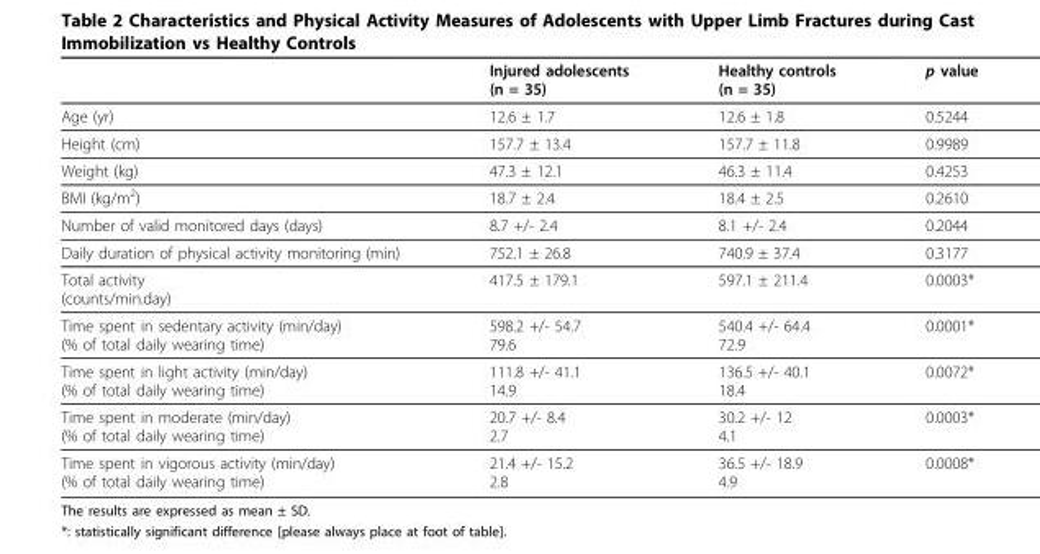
<table><thead><tr><td></td><td>Injured adolescents (n = 35)</td><td>Healthy controls (n = 35)</td><td>p value</td></tr></thead><tbody><tr><td>Age (yr)</td><td>12.6 ± 1.7</td><td>12.6 ± 1.8</td><td>0.5244</td></tr><tr><td>Height (cm)</td><td>157.7 ± 13.4</td><td>157.7 ± 11.8</td><td>0.9989</td></tr><tr><td>Weight (kg)</td><td>47.3 ± 12.1</td><td>46.3 ± 11.4</td><td>0.4253</td></tr><tr><td>BMI (kg/m<sup>2</sup>)</td><td>18.7 ± 2.4</td><td>18.4 ± 2.5</td><td>0.2610</td></tr><tr><td>Number of valid monitored days (days)</td><td>8.7 +/- 2.4</td><td>8.1 +/- 2.4</td><td>0.2044</td></tr><tr><td>Daily duration of physical activity monitoring (min)</td><td>752.1 ± 26.8</td><td>740.9 ± 37.4</td><td>0.3177</td></tr><tr><td>Total activity (counts/min.day)</td><td>417.5 ± 179.1</td><td>597.1 ± 211.4</td><td>0.0003*</td></tr><tr><td>Time spent in sedentary activity (min/day) (% of total daily wearing time)</td><td>598.2 +/- 54.7 79.6</td><td>540.4 +/- 64.4 72.9</td><td>0.0001*</td></tr><tr><td>Time spent in light activity (min/day) (% of total daily wearing time)</td><td>111.8 +/- 41.1 14.9</td><td>136.5 +/- 40.1 18.4</td><td>0.0072*</td></tr><tr><td>Time spent in moderate (min/day) (% of total daily wearing time)</td><td>20.7 +/- 8.4 2.7</td><td>30.2 +/- 12 4.1</td><td>0.0003*</td></tr><tr><td>Time spent in vigorous activity (min/day) (% of total daily wearing time)</td><td>21.4 +/- 15.2 2.8</td><td>36.5 +/- 18.9 4.9</td><td>0.0008*</td></tr></tbody></table>